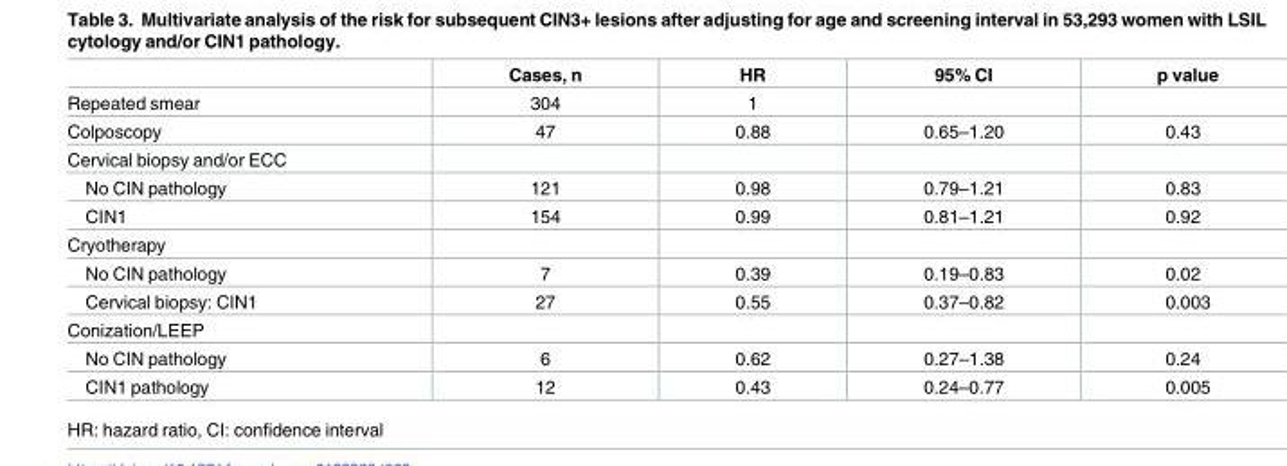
<table><thead><tr><td></td><td>Cases, n</td><td>HR</td><td>95% CI</td><td>p value</td></tr></thead><tbody><tr><td>Repeated smear</td><td>304</td><td>1</td><td></td><td></td></tr><tr><td>Colposcopy</td><td>47</td><td>0.88</td><td>0.65–1.20</td><td>0.43</td></tr><tr><td colspan="5">Cervical biopsy and/or ECC</td></tr><tr><td>No CIN pathology</td><td>121</td><td>0.98</td><td>0.79–1.21</td><td>0.83</td></tr><tr><td>CIN1</td><td>154</td><td>0.99</td><td>0.81–1.21</td><td>0.92</td></tr><tr><td colspan="5">Cryotherapy</td></tr><tr><td>No CIN pathology</td><td>7</td><td>0.39</td><td>0.19–0.83</td><td>0.02</td></tr><tr><td>Cervical biopsy: CIN1</td><td>27</td><td>0.55</td><td>0.37–0.82</td><td>0.003</td></tr><tr><td colspan="5">Conization/LEEP</td></tr><tr><td>No CIN pathology</td><td>6</td><td>0.62</td><td>0.27–1.38</td><td>0.24</td></tr><tr><td>CIN1 pathology</td><td>12</td><td>0.43</td><td>0.24–0.77</td><td>0.005</td></tr></tbody></table>